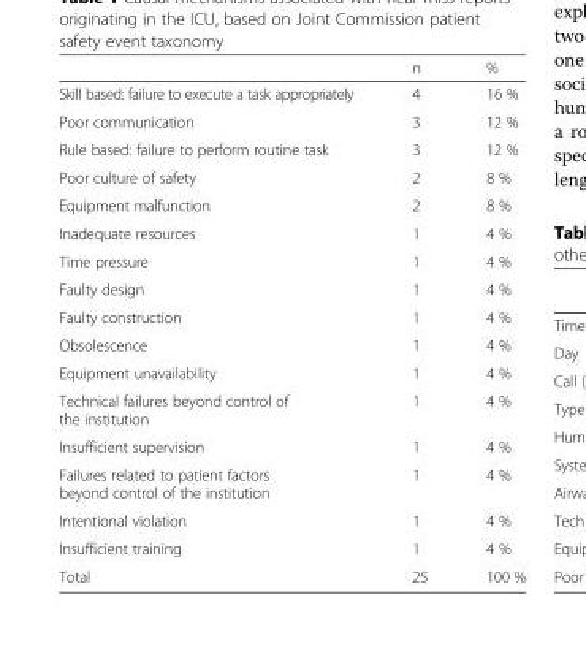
<table><thead><tr><td></td><td>n</td><td>%</td></tr></thead><tbody><tr><td>Skill based: failure to execute a task appropriately</td><td>4</td><td>16 %</td></tr><tr><td>Poor communication</td><td>3</td><td>12 %</td></tr><tr><td>Rule based: failure to perform routine task</td><td>3</td><td>12 %</td></tr><tr><td>Poor culture of safety</td><td>2</td><td>8 %</td></tr><tr><td>Equipment malfunction</td><td>2</td><td>8 %</td></tr><tr><td>Inadequate resources</td><td>1</td><td>4 %</td></tr><tr><td>Time pressure</td><td>1</td><td>4 %</td></tr><tr><td>Faulty design</td><td>1</td><td>4 %</td></tr><tr><td>Faulty construction</td><td>1</td><td>4 %</td></tr><tr><td>Obsolescence</td><td>1</td><td>4 %</td></tr><tr><td>Equipment unavailability</td><td>1</td><td>4 %</td></tr><tr><td>Technical failures beyond control of the institution</td><td>1</td><td>4 %</td></tr><tr><td>Insufficient supervision</td><td>1</td><td>4 %</td></tr><tr><td>Failures related to patient factors beyond control of the institution</td><td>1</td><td>4 %</td></tr><tr><td>Intentional violation</td><td>1</td><td>4 %</td></tr><tr><td>Insufficient training</td><td>1</td><td>4 %</td></tr><tr><td>Total</td><td>25</td><td>100 %</td></tr></tbody></table>